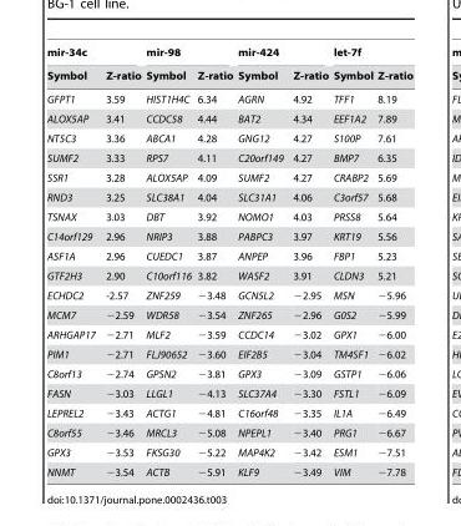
<table><thead><tr><td colspan="2">mir-34c</td><td colspan="2">mir-98</td><td colspan="2">mir-424</td><td colspan="2">let-7f</td></tr><tr><td>Symbol</td><td>Z-ratio</td><td>Symbol</td><td>Z-ratio</td><td>Symbol</td><td>Z-ratio</td><td>Symbol</td><td>Z-ratio</td></tr></thead><tbody><tr><td>GFPT1</td><td>3.59</td><td>HIST1H4C</td><td>6.34</td><td>AGRN</td><td>4.92</td><td>TFF1</td><td>8.19</td></tr><tr><td>ALOX5AP</td><td>3.41</td><td>CCDC58</td><td>4.44</td><td>BAT2</td><td>4.34</td><td>EEF1A2</td><td>7.89</td></tr><tr><td>NT5C3</td><td>3.36</td><td>ABCA1</td><td>4.28</td><td>GNG12</td><td>4.27</td><td>S100P</td><td>7.61</td></tr><tr><td>SUMF2</td><td>3.33</td><td>RPS7</td><td>4.11</td><td>C20orf149</td><td>4.27</td><td>BMP7</td><td>6.35</td></tr><tr><td>SSR1</td><td>3.28</td><td>ALOX5AP</td><td>4.09</td><td>SUMF2</td><td>4.27</td><td>CRABP2</td><td>5.69</td></tr><tr><td>RND3</td><td>3.25</td><td>SLC38A1</td><td>4.04</td><td>SLC31A1</td><td>4.06</td><td>C3orf57</td><td>5.68</td></tr><tr><td>TSNAX</td><td>3.03</td><td>DBT</td><td>3.92</td><td>NOMO1</td><td>4.03</td><td>PRSS8</td><td>5.64</td></tr><tr><td>C14orf129</td><td>2.96</td><td>NRIP3</td><td>3.88</td><td>PABPC3</td><td>3.97</td><td>KRT19</td><td>5.56</td></tr><tr><td>ASF1A</td><td>2.96</td><td>CUEDC1</td><td>3.87</td><td>ANPEP</td><td>3.96</td><td>FBP1</td><td>5.23</td></tr><tr><td>GTF2H3</td><td>2.90</td><td>C10orf116</td><td>3.82</td><td>WASF2</td><td>3.91</td><td>CLDN3</td><td>5.21</td></tr><tr><td>ECHDC2</td><td>-2.57</td><td>ZNF259</td><td>−3.48</td><td>GCN5L2</td><td>−2.95</td><td>MSN</td><td>−5.96</td></tr><tr><td>MCM7</td><td>−2.59</td><td>WDR58</td><td>−3.54</td><td>ZNF265</td><td>−2.96</td><td>G0S2</td><td>−5.99</td></tr><tr><td>ARHGAP17</td><td>−2.71</td><td>MLF2</td><td>−3.59</td><td>CCDC14</td><td>−3.02</td><td>GPX1</td><td>−6.00</td></tr><tr><td>PIM1</td><td>−2.71</td><td>FLJ90652</td><td>−3.60</td><td>EIF2B5</td><td>−3.04</td><td>TM4SF1</td><td>−6.02</td></tr><tr><td>C8orf13</td><td>−2.74</td><td>GPSN2</td><td>−3.81</td><td>GPX3</td><td>−3.09</td><td>GSTP1</td><td>−6.06</td></tr><tr><td>FASN</td><td>−3.03</td><td>LLGL1</td><td>−4.13</td><td>SLC37A4</td><td>−3.30</td><td>FSTL1</td><td>−6.09</td></tr><tr><td>LEPREL2</td><td>−3.43</td><td>ACTG1</td><td>−4.81</td><td>C16orf48</td><td>−3.35</td><td>IL1A</td><td>−6.49</td></tr><tr><td>C8orf55</td><td>−3.46</td><td>MRCL3</td><td>−5.08</td><td>NPEPL1</td><td>−3.40</td><td>PRG1</td><td>−6.67</td></tr><tr><td>GPX3</td><td>−3.53</td><td>FKSG30</td><td>−5.22</td><td>MAP4K2</td><td>−3.42</td><td>ESM1</td><td>−7.51</td></tr><tr><td>NNMT</td><td>−3.54</td><td>ACTB</td><td>−5.91</td><td>KLF9</td><td>−3.49</td><td>VIM</td><td>−7.78</td></tr></tbody></table>